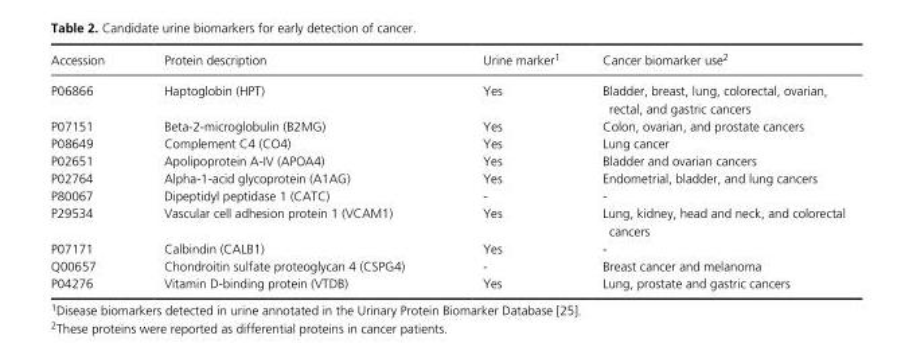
<table><thead><tr><td>Accession</td><td>Protein description</td><td>Urine marker1</td><td>Cancer biomarker use2</td></tr></thead><tbody><tr><td>P06866</td><td>Haptoglobin (HPT)</td><td>Yes</td><td>Bladder, breast, lung, colorectal, ovarian, rectal, and gastric cancers</td></tr><tr><td>P07151</td><td>Beta- 2- microglobulin (B2MG)</td><td>Yes</td><td>Colon, ovarian, and prostate cancers</td></tr><tr><td>P08649</td><td>Complement C4 (CO4)</td><td>Yes</td><td>Lung cancer</td></tr><tr><td>P02651</td><td>Apolipoprotein A- IV (APOA4)</td><td>Yes</td><td>Bladder and ovarian cancers</td></tr><tr><td>P02764</td><td>Alpha- 1- acid glycoprotein (A1AG)</td><td>Yes</td><td>Endometrial, bladder, and lung cancers</td></tr><tr><td>P80067</td><td>Dipeptidyl peptidase 1 (CATC)</td><td>-</td><td>-</td></tr><tr><td>P29534</td><td>Vascular cell adhesion protein 1 (VCAM1)</td><td>Yes</td><td>Lung, kidney, head and neck, and colorectal cancers</td></tr><tr><td>P07171</td><td>Calbindin (CALB1)</td><td>Yes</td><td>-</td></tr><tr><td>Q00657</td><td>Chondroitin sulfate proteoglycan 4 (CSPG4)</td><td>-</td><td>Breast cancer and melanoma</td></tr><tr><td>P04276</td><td>Vitamin D- binding protein (VTDB)</td><td>Yes</td><td>Lung, prostate and gastric cancers</td></tr></tbody></table>